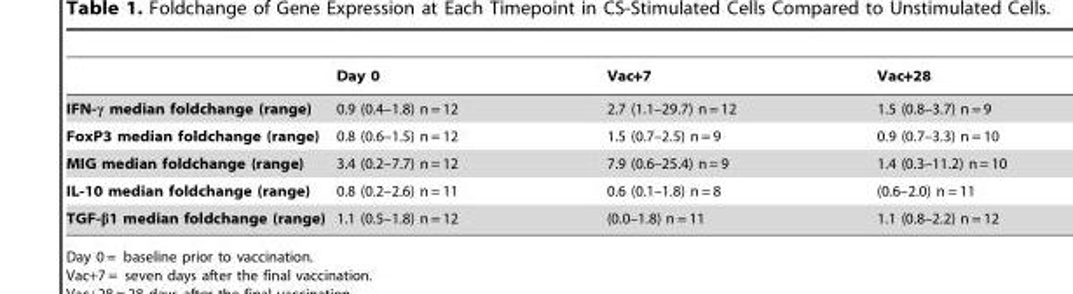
<table><thead><tr><td></td><td>Day 0</td><td>Vac+7</td><td>Vac+28</td></tr></thead><tbody><tr><td>IFN-γ median foldchange (range)</td><td>0.9 (0.4–1.8) n = 12</td><td>2.7 (1.1–29.7) n = 12</td><td>1.5 (0.8–3.7) n = 9</td></tr><tr><td>FoxP3 median foldchange (range)</td><td>0.8 (0.6–1.5) n = 12</td><td>1.5 (0.7–2.5) n = 9</td><td>0.9 (0.7–3.3) n = 10</td></tr><tr><td>MIG median foldchange (range)</td><td>3.4 (0.2–7.7) n = 12</td><td>7.9 (0.6–25.4) n = 9</td><td>1.4 (0.3–11.2) n = 10</td></tr><tr><td>IL-10 median foldchange (range)</td><td>0.8 (0.2–2.6) n = 11</td><td>0.6 (0.1–1.8) n = 8</td><td>(0.6–2.0) n = 11</td></tr><tr><td>TGF-β1 median foldchange (range)</td><td>1.1 (0.5–1.8) n = 12</td><td>(0.0–1.8) n = 11</td><td>1.1 (0.8–2.2) n = 12</td></tr></tbody></table>